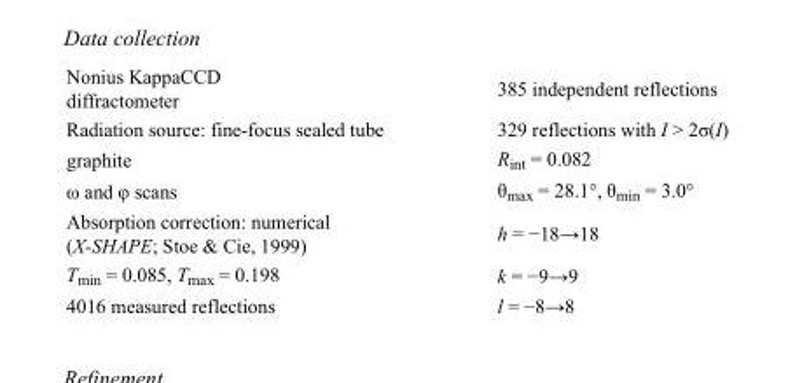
<table><tbody><tr><td>Nonius KappaCCD diffractometer</td><td>385 independent reflections</td></tr><tr><td>Radiation source: fine-focus sealed tube</td><td>329 reflections with I &gt; 2σ(I)</td></tr><tr><td>graphite</td><td>R<sub>int</sub> = 0.082</td></tr><tr><td>ω and φ scans</td><td>θ<sub>max</sub> = 28.1°, θ<sub>min</sub> = 3.0°</td></tr><tr><td>Absorption correction: numerical (X-SHAPE; Stoe &amp; Cie, 1999)</td><td>h = −18→18</td></tr><tr><td>T<sub>min</sub> = 0.085, T<sub>max</sub> = 0.198</td><td>k = −9→9</td></tr><tr><td>4016 measured reflections</td><td>l = −8→8</td></tr></tbody></table>